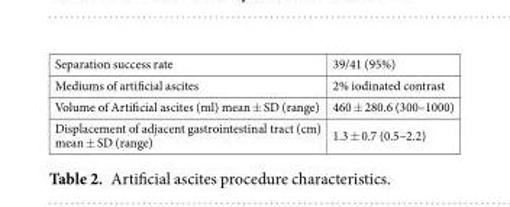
<table><tbody><tr><td>Separation success rate</td><td>39/41 (95%)</td></tr><tr><td>Mediums of artificial ascites</td><td>2% iodinated contrast</td></tr><tr><td>Volume of Artificial ascites (ml) mean ± SD (range)</td><td>460 ± 280.6 (300–1000)</td></tr><tr><td>Displacement of adjacent gastrointestinal tract (cm) mean ± SD (range)</td><td>1.3 ± 0.7 (0.5–2.2)</td></tr></tbody></table>